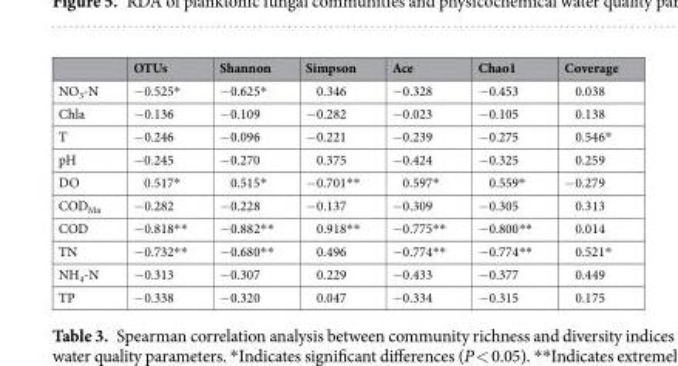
<table><thead><tr><td></td><td>OTUs</td><td>Shannon</td><td>Simpson</td><td>Ace</td><td>Chao1</td><td>Coverage</td></tr></thead><tbody><tr><td>NO<sub>3</sub>-N</td><td>−0.525*</td><td>−0.625*</td><td>0.346</td><td>−0.328</td><td>−0.453</td><td>0.038</td></tr><tr><td>Chla</td><td>−0.136</td><td>−0.109</td><td>−0.282</td><td>−0.023</td><td>−0.105</td><td>0.138</td></tr><tr><td>T</td><td>−0.246</td><td>−0.096</td><td>−0.221</td><td>−0.239</td><td>−0.275</td><td>0.546*</td></tr><tr><td>pH</td><td>−0.245</td><td>−0.270</td><td>0.375</td><td>−0.424</td><td>−0.325</td><td>0.259</td></tr><tr><td>DO</td><td>0.517*</td><td>0.515*</td><td>−0.701**</td><td>0.597*</td><td>0.559*</td><td>−0.279</td></tr><tr><td>COD<sub>Mn</sub></td><td>−0.282</td><td>−0.228</td><td>−0.137</td><td>−0.309</td><td>−0.305</td><td>0.313</td></tr><tr><td>COD</td><td>−0.818**</td><td>−0.882**</td><td>0.918**</td><td>−0.775**</td><td>−0.800**</td><td>0.014</td></tr><tr><td>TN</td><td>−0.732**</td><td>−0.680**</td><td>0.496</td><td>−0.774**</td><td>−0.774**</td><td>0.521*</td></tr><tr><td>NH<sub>4</sub>-N</td><td>−0.313</td><td>−0.307</td><td>0.229</td><td>−0.433</td><td>−0.377</td><td>0.449</td></tr><tr><td>TP</td><td>−0.338</td><td>−0.320</td><td>0.047</td><td>−0.334</td><td>−0.315</td><td>0.175</td></tr></tbody></table>